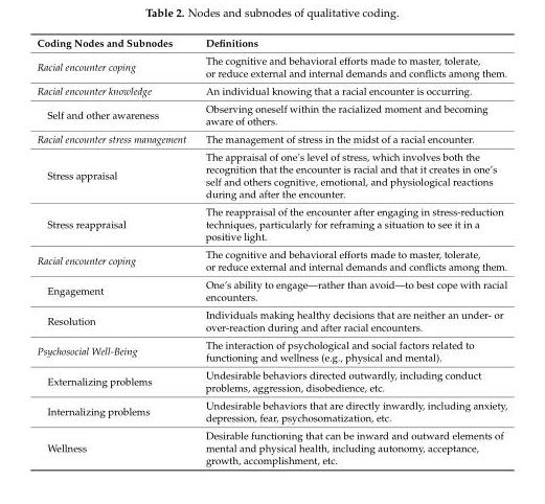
<table><thead><tr><td>Coding Nodes and Subnodes</td><td>Definitions</td></tr></thead><tbody><tr><td>Racial encounter coping</td><td>The cognitive and behavioral efforts made to master, tolerate, or reduce external and internal demands and conflicts among them.</td></tr><tr><td>Racial encounter knowledge</td><td>An individual knowing that a racial encounter is occurring.</td></tr><tr><td>Self and other awareness</td><td>Observing oneself within the racialized moment and becoming aware of others.</td></tr><tr><td>Racial encounter stress management</td><td>The management of stress in the midst of a racial encounter.</td></tr><tr><td>Stress appraisal</td><td>The appraisal of one’s level of stress, which involves both the recognition that the encounter is racial and that it creates in one’s self and others cognitive, emotional, and physiological reactions during and after the encounter.</td></tr><tr><td>Stress reappraisal</td><td>The reappraisal of the encounter after engaging in stress-reduction techniques, particularly for reframing a situation to see it in a positive light.</td></tr><tr><td>Racial encounter coping</td><td>The cognitive and behavioral efforts made to master, tolerate, or reduce external and internal demands and conflicts among them.</td></tr><tr><td>Engagement</td><td>One’s ability to engage—rather than avoid—to best cope with racial encounters.</td></tr><tr><td>Resolution</td><td>Individuals making healthy decisions that are neither an under- or over-reaction during and after racial encounters.</td></tr><tr><td>Psychosocial Well-Being</td><td>The interaction of psychological and social factors related to functioning and wellness (e.g., physical and mental).</td></tr><tr><td>Externalizing problems</td><td>Undesirable behaviors directed outwardly, including conduct problems, aggression, disobedience, etc.</td></tr><tr><td>Internalizing problems</td><td>Undesirable behaviors that are directly inwardly, including anxiety, depression, fear, psychosomatization, etc.</td></tr><tr><td>Wellness</td><td>Desirable functioning that can be inward and outward elements of mental and physical health, including autonomy, acceptance, growth, accomplishment, etc.</td></tr></tbody></table>